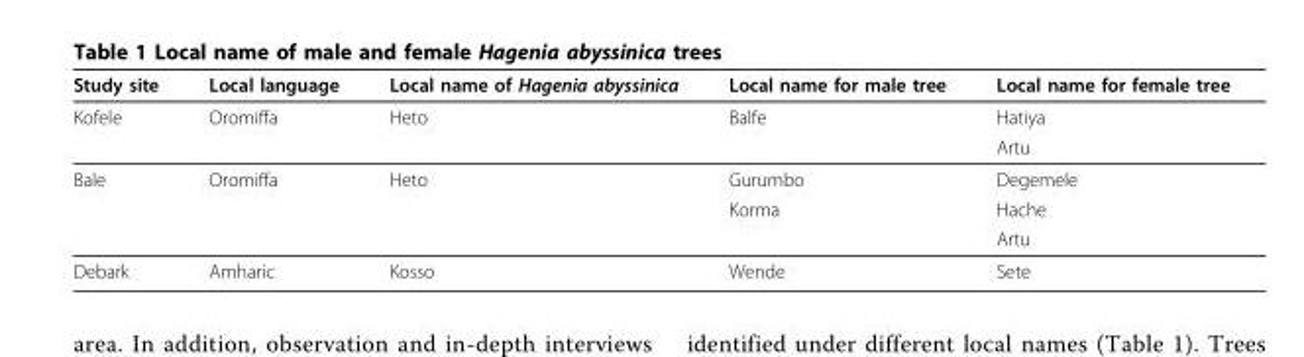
<table><thead><tr><td>Study site</td><td>Local language</td><td>Local name of Hagenia abyssinica</td><td>Local name for male tree</td><td>Local name for female tree</td></tr></thead><tbody><tr><td rowspan="2">Kofele</td><td>Oromiffa</td><td>Heto</td><td>Balfe</td><td>Hatiya</td></tr><tr><td></td><td></td><td></td><td>Artu</td></tr><tr><td rowspan="3">Bale</td><td>Oromiffa</td><td>Heto</td><td>Gurumbo</td><td>Degemele</td></tr><tr><td></td><td></td><td>Korma</td><td>Hache</td></tr><tr><td></td><td></td><td></td><td>Artu</td></tr><tr><td>Debark</td><td>Amharic</td><td>Kosso</td><td>Wende</td><td>Sete</td></tr></tbody></table>